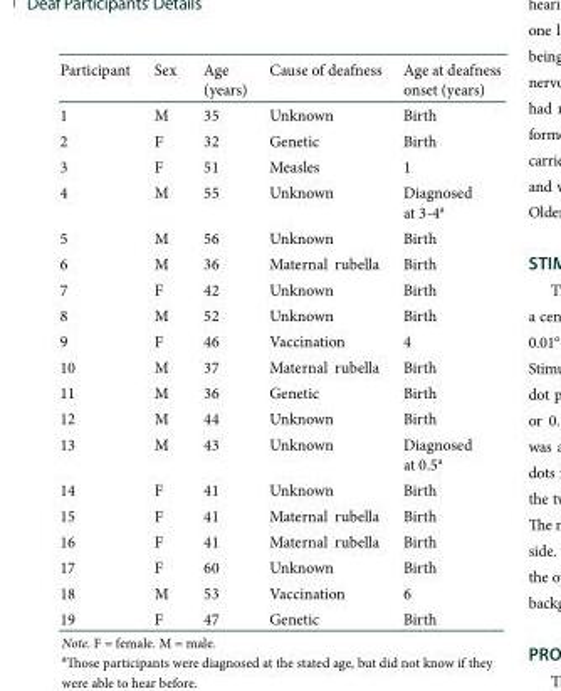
<table><thead><tr><td>Participant</td><td>Sex</td><td>Age (years)</td><td>Cause of deafness</td><td>Age at deafness onset (years)</td></tr></thead><tbody><tr><td>1</td><td>M</td><td>35</td><td>Unknown</td><td>Birth</td></tr><tr><td>2</td><td>F</td><td>32</td><td>Genetic</td><td>Birth</td></tr><tr><td>3</td><td>F</td><td>51</td><td>Measles</td><td>1</td></tr><tr><td>4</td><td>M</td><td>55</td><td>Unknown</td><td>Diagnosed at 3-4<sup>a</sup></td></tr><tr><td>5</td><td>M</td><td>56</td><td>Unknown</td><td>Birth</td></tr><tr><td>6</td><td>M</td><td>36</td><td>Maternal rubella</td><td>Birth</td></tr><tr><td>7</td><td>F</td><td>42</td><td>Unknown</td><td>Birth</td></tr><tr><td>8</td><td>M</td><td>52</td><td>Unknown</td><td>Birth</td></tr><tr><td>9</td><td>F</td><td>46</td><td>Vaccination</td><td>4</td></tr><tr><td>10</td><td>M</td><td>37</td><td>Maternal rubella</td><td>Birth</td></tr><tr><td>11</td><td>M</td><td>36</td><td>Genetic</td><td>Birth</td></tr><tr><td>12</td><td>M</td><td>44</td><td>Unknown</td><td>Birth</td></tr><tr><td>13</td><td>M</td><td>43</td><td>Unknown</td><td>Diagnosed at 0.5a</td></tr><tr><td>14</td><td>F</td><td>41</td><td>Unknown</td><td>Birth</td></tr><tr><td>15</td><td>F</td><td>41</td><td>Maternal rubella</td><td>Birth</td></tr><tr><td>16</td><td>F</td><td>41</td><td>Maternal rubella</td><td>Birth</td></tr><tr><td>17</td><td>F</td><td>60</td><td>Unknown</td><td>Birth</td></tr><tr><td>18</td><td>M</td><td>53</td><td>Vaccination</td><td>6</td></tr><tr><td>19</td><td>F</td><td>47</td><td>Genetic</td><td>Birth</td></tr></tbody></table>